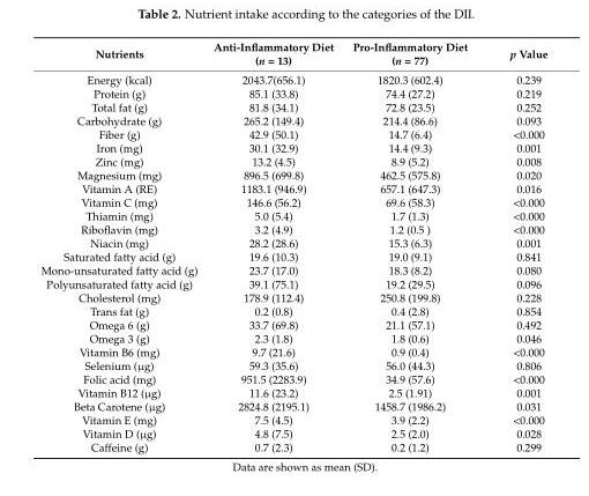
<table><thead><tr><td>Nutrients</td><td>Anti-Inflammatory Diet (n = 13)</td><td>Pro-Inflammatory Diet (n = 77)</td><td>p Value</td></tr></thead><tbody><tr><td>Energy (kcal)</td><td>2043.7(656.1)</td><td>1820.3 (602.4)</td><td>0.239</td></tr><tr><td>Protein (g)</td><td>85.1 (33.8)</td><td>74.4 (27.2)</td><td>0.219</td></tr><tr><td>Total fat (g)</td><td>81.8 (34.1)</td><td>72.8 (23.5)</td><td>0.252</td></tr><tr><td>Carbohydrate (g)</td><td>265.2 (149.4)</td><td>214.4 (86.6)</td><td>0.093</td></tr><tr><td>Fiber (g)</td><td>42.9 (50.1)</td><td>14.7 (6.4)</td><td>&lt;0.000</td></tr><tr><td>Iron (mg)</td><td>30.1 (32.9)</td><td>14.4 (9.3)</td><td>0.001</td></tr><tr><td>Zinc (mg)</td><td>13.2 (4.5)</td><td>8.9 (5.2)</td><td>0.008</td></tr><tr><td>Magnesium (mg)</td><td>896.5 (699.8)</td><td>462.5 (575.8)</td><td>0.020</td></tr><tr><td>Vitamin A (RE)</td><td>1183.1 (946.9)</td><td>657.1 (647.3)</td><td>0.016</td></tr><tr><td>Vitamin C (mg)</td><td>146.6 (56.2)</td><td>69.6 (58.3)</td><td>&lt;0.000</td></tr><tr><td>Thiamin (mg)</td><td>5.0 (5.4)</td><td>1.7 (1.3)</td><td>&lt;0.000</td></tr><tr><td>Riboflavin (mg)</td><td>3.2 (4.9)</td><td>1.2 (0.5 )</td><td>&lt;0.000</td></tr><tr><td>Niacin (mg)</td><td>28.2 (28.6)</td><td>15.3 (6.3)</td><td>0.001</td></tr><tr><td>Saturated fatty acid (g)</td><td>19.6 (10.3)</td><td>19.0 (9.1)</td><td>0.841</td></tr><tr><td>Mono-unsaturated fatty acid (g)</td><td>23.7 (17.0)</td><td>18.3 (8.2)</td><td>0.080</td></tr><tr><td>Polyunsaturated fatty acid (g)</td><td>39.1 (75.1)</td><td>19.2 (29.5)</td><td>0.096</td></tr><tr><td>Cholesterol (mg)</td><td>178.9 (112.4)</td><td>250.8 (199.8)</td><td>0.228</td></tr><tr><td>Trans fat (g)</td><td>0.2 (0.8)</td><td>0.4 (2.8)</td><td>0.854</td></tr><tr><td>Omega 6 (g)</td><td>33.7 (69.8)</td><td>21.1 (57.1)</td><td>0.492</td></tr><tr><td>Omega 3 (g)</td><td>2.3 (1.8)</td><td>1.8 (0.6)</td><td>0.046</td></tr><tr><td>Vitamin B6 (mg)</td><td>9.7 (21.6)</td><td>0.9 (0.4)</td><td>&lt;0.000</td></tr><tr><td>Selenium (µg)</td><td>59.3 (35.6)</td><td>56.0 (44.3)</td><td>0.806</td></tr><tr><td>Folic acid (mg)</td><td>951.5 (2283.9)</td><td>34.9 (57.6)</td><td>&lt;0.000</td></tr><tr><td>Vitamin B12 (µg)</td><td>11.6 (23.2)</td><td>2.5 (1.91)</td><td>0.001</td></tr><tr><td>Beta Carotene (µg)</td><td>2824.8 (2195.1)</td><td>1458.7 (1986.2)</td><td>0.031</td></tr><tr><td>Vitamin E (mg)</td><td>7.5 (4.5)</td><td>3.9 (2.2)</td><td>&lt;0.000</td></tr><tr><td>Vitamin D (µg)</td><td>4.8 (7.5)</td><td>2.5 (2.0)</td><td>0.028</td></tr><tr><td>Caffeine (g)</td><td>0.7 (2.3)</td><td>0.2 (1.2)</td><td>0.299</td></tr></tbody></table>